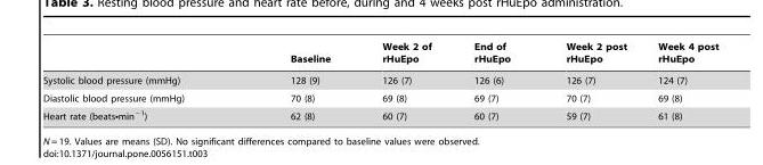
<table><thead><tr><td></td><td>Baseline</td><td>Week 2 of rHuEpo</td><td>End of rHuEpo</td><td>Week 2 post rHuEpo</td><td>Week 4 post rHuEpo</td></tr></thead><tbody><tr><td>Systolic blood pressure (mmHg)</td><td>128 (9)</td><td>126 (7)</td><td>126 (6)</td><td>126 (7)</td><td>124 (7)</td></tr><tr><td>Diastolic blood pressure (mmHg)</td><td>70 (8)</td><td>69 (8)</td><td>69 (7)</td><td>70 (7)</td><td>69 (8)</td></tr><tr><td>Heart rate (beats•min<sup>−1</sup>)</td><td>62 (8)</td><td>60 (7)</td><td>60 (7)</td><td>59 (7)</td><td>61 (8)</td></tr></tbody></table>